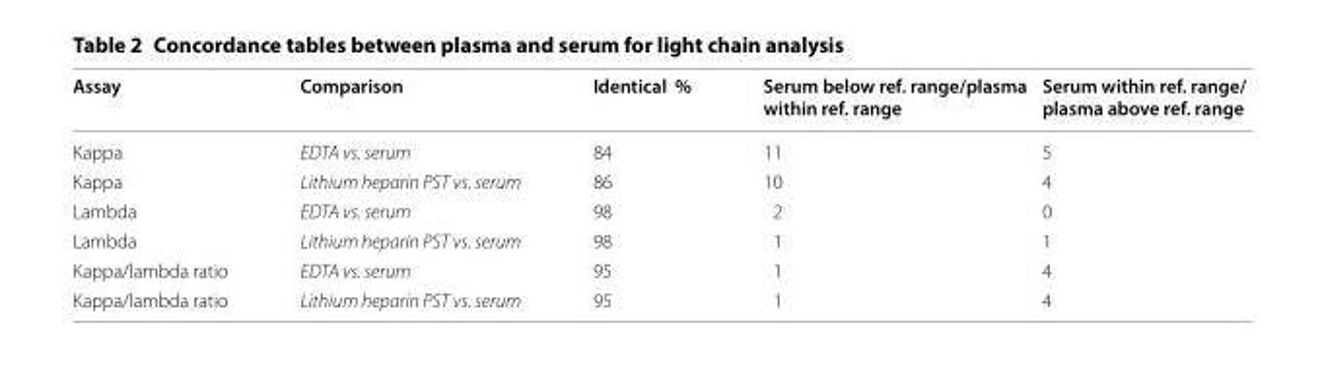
<table><thead><tr><td>Assay</td><td>Comparison</td><td>Identical %</td><td>Serum below ref. range/plasma within ref. range</td><td>Serum within ref. range/ plasma above ref. range</td></tr></thead><tbody><tr><td>Kappa</td><td>EDTA vs. serum</td><td>84</td><td>11</td><td>5</td></tr><tr><td>Kappa</td><td>Lithium heparin PST vs. serum</td><td>86</td><td>10</td><td>4</td></tr><tr><td>Lambda</td><td>EDTA vs. serum</td><td>98</td><td>2</td><td>0</td></tr><tr><td>Lambda</td><td>Lithium heparin PST vs. serum</td><td>98</td><td>1</td><td>1</td></tr><tr><td>Kappa/lambda ratio</td><td>EDTA vs. serum</td><td>95</td><td>1</td><td>4</td></tr><tr><td>Kappa/lambda ratio</td><td>Lithium heparin PST vs. serum</td><td>95</td><td>1</td><td>4</td></tr></tbody></table>